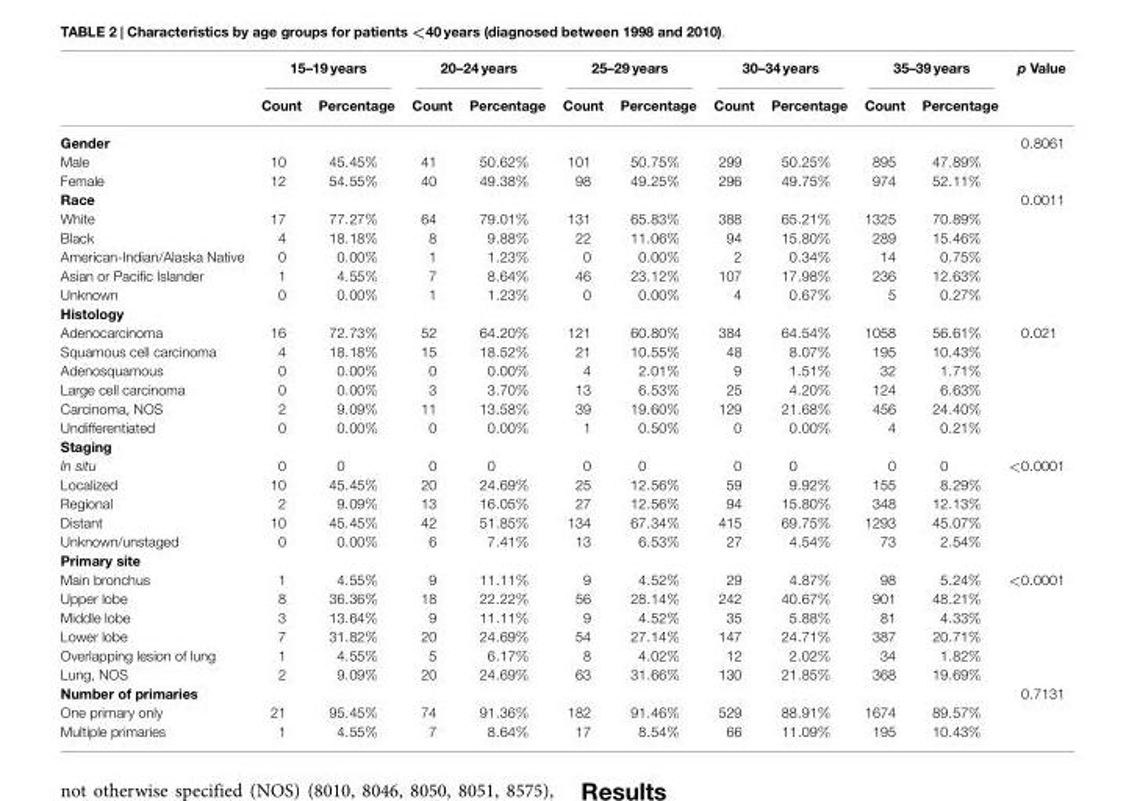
<table><thead><tr><td rowspan="2"></td><td colspan="2">15–19 years</td><td colspan="2">20–24 years</td><td colspan="2">25–29 years</td><td colspan="2">30–34 years</td><td colspan="2">35–39 years</td><td rowspan="2">p Value</td></tr><tr><td>Count</td><td>Percentage</td><td>Count</td><td>Percentage</td><td>Count</td><td>Percentage</td><td>Count</td><td>Percentage</td><td>Count</td><td>Percentage</td></tr></thead><tbody><tr><td>Gender</td><td></td><td></td><td></td><td></td><td></td><td></td><td></td><td></td><td></td><td></td><td>0.8061</td></tr><tr><td>Male</td><td>10</td><td>45.45%</td><td>41</td><td>50.62%</td><td>101</td><td>50.75%</td><td>299</td><td>50.25%</td><td>895</td><td>47.89%</td><td></td></tr><tr><td>Female</td><td>12</td><td>54.55%</td><td>40</td><td>49.38%</td><td>98</td><td>49.25%</td><td>296</td><td>49.75%</td><td>974</td><td>52.11%</td><td></td></tr><tr><td>Race</td><td></td><td></td><td></td><td></td><td></td><td></td><td></td><td></td><td></td><td></td><td>0.0011</td></tr><tr><td>White</td><td>17</td><td>77.27%</td><td>64</td><td>79.01%</td><td>131</td><td>65.83%</td><td>388</td><td>65.21%</td><td>1325</td><td>70.89%</td><td></td></tr><tr><td>Black</td><td>4</td><td>18.18%</td><td>8</td><td>9.88%</td><td>22</td><td>11.06%</td><td>94</td><td>15.80%</td><td>289</td><td>15.46%</td><td></td></tr><tr><td>American-Indian/Alaska Native</td><td>0</td><td>0.00%</td><td>1</td><td>1.23%</td><td>0</td><td>0.00%</td><td>2</td><td>0.34%</td><td>14</td><td>0.75%</td><td></td></tr><tr><td>Asian or Pacific Islander</td><td>1</td><td>4.55%</td><td>7</td><td>8.64%</td><td>46</td><td>23.12%</td><td>107</td><td>17.98%</td><td>236</td><td>12.63%</td><td></td></tr><tr><td>Unknown</td><td>0</td><td>0.00%</td><td>1</td><td>1.23%</td><td>0</td><td>0.00%</td><td>4</td><td>0.67%</td><td>5</td><td>0.27%</td><td></td></tr><tr><td colspan="12">Histology</td></tr><tr><td>Adenocarcinoma</td><td>16</td><td>72.73%</td><td>52</td><td>64.20%</td><td>121</td><td>60.80%</td><td>384</td><td>64.54%</td><td>1058</td><td>56.61%</td><td>0.021</td></tr><tr><td>Squamous cell carcinoma</td><td>4</td><td>18.18%</td><td>15</td><td>18.52%</td><td>21</td><td>10.55%</td><td>48</td><td>8.07%</td><td>195</td><td>10.43%</td><td></td></tr><tr><td>Adenosquamous</td><td>0</td><td>0.00%</td><td>0</td><td>0.00%</td><td>4</td><td>2.01%</td><td>9</td><td>1.51%</td><td>32</td><td>1.71%</td><td></td></tr><tr><td>Large cell carcinoma</td><td>0</td><td>0.00%</td><td>3</td><td>3.70%</td><td>13</td><td>6.53%</td><td>25</td><td>4.20%</td><td>124</td><td>6.63%</td><td></td></tr><tr><td>Carcinoma, NOS</td><td>2</td><td>9.09%</td><td>11</td><td>13.58%</td><td>39</td><td>19.60%</td><td>129</td><td>21.68%</td><td>456</td><td>24.40%</td><td></td></tr><tr><td>Undifferentiated</td><td>0</td><td>0.00%</td><td>0</td><td>0.00%</td><td>1</td><td>0.50%</td><td>0</td><td>0.00%</td><td>4</td><td>0.21%</td><td></td></tr><tr><td colspan="12">Staging</td></tr><tr><td>In situ</td><td>0</td><td>0</td><td>0</td><td>0</td><td>0</td><td>0</td><td>0</td><td>0</td><td>0</td><td>0</td><td>&lt;0.0001</td></tr><tr><td>Localized</td><td>10</td><td>45.45%</td><td>20</td><td>24.69%</td><td>25</td><td>12.56%</td><td>59</td><td>9.92%</td><td>155</td><td>8.29%</td><td></td></tr><tr><td>Regional</td><td>2</td><td>9.09%</td><td>13</td><td>16.05%</td><td>27</td><td>12.56%</td><td>94</td><td>15.80%</td><td>348</td><td>12.13%</td><td></td></tr><tr><td>Distant</td><td>10</td><td>45.45%</td><td>42</td><td>51.85%</td><td>134</td><td>67.34%</td><td>415</td><td>69.75%</td><td>1293</td><td>45.07%</td><td></td></tr><tr><td>Unknown/unstaged</td><td>0</td><td>0.00%</td><td>6</td><td>7.41%</td><td>13</td><td>6.53%</td><td>27</td><td>4.54%</td><td>73</td><td>2.54%</td><td></td></tr><tr><td colspan="12">Primary site</td></tr><tr><td>Main bronchus</td><td>1</td><td>4.55%</td><td>9</td><td>11.11%</td><td>9</td><td>4.52%</td><td>29</td><td>4.87%</td><td>98</td><td>5.24%</td><td>&lt;0.0001</td></tr><tr><td>Upper lobe</td><td>8</td><td>36.36%</td><td>18</td><td>22.22%</td><td>56</td><td>28.14%</td><td>242</td><td>40.67%</td><td>901</td><td>48.21%</td><td></td></tr><tr><td>Middle lobe</td><td>3</td><td>13.64%</td><td>9</td><td>11.11%</td><td>9</td><td>4.52%</td><td>35</td><td>5.88%</td><td>81</td><td>4.33%</td><td></td></tr><tr><td>Lower lobe</td><td>7</td><td>31.82%</td><td>20</td><td>24.69%</td><td>54</td><td>27.14%</td><td>147</td><td>24.71%</td><td>387</td><td>20.71%</td><td></td></tr><tr><td>Overlapping lesion of lung</td><td>1</td><td>4.55%</td><td>5</td><td>6.17%</td><td>8</td><td>4.02%</td><td>12</td><td>2.02%</td><td>34</td><td>1.82%</td><td></td></tr><tr><td>Lung, NOS</td><td>2</td><td>9.09%</td><td>20</td><td>24.69%</td><td>63</td><td>31.66%</td><td>130</td><td>21.85%</td><td>368</td><td>19.69%</td><td></td></tr><tr><td>Number of primaries</td><td></td><td></td><td></td><td></td><td></td><td></td><td></td><td></td><td></td><td></td><td>0.7131</td></tr><tr><td>One primary only</td><td>21</td><td>95.45%</td><td>74</td><td>91.36%</td><td>182</td><td>91.46%</td><td>529</td><td>88.91%</td><td>1674</td><td>89.57%</td><td></td></tr><tr><td>Multiple primaries</td><td>1</td><td>4.55%</td><td>7</td><td>8.64%</td><td>17</td><td>8.54%</td><td>66</td><td>11.09%</td><td>195</td><td>10.43%</td><td></td></tr></tbody></table>